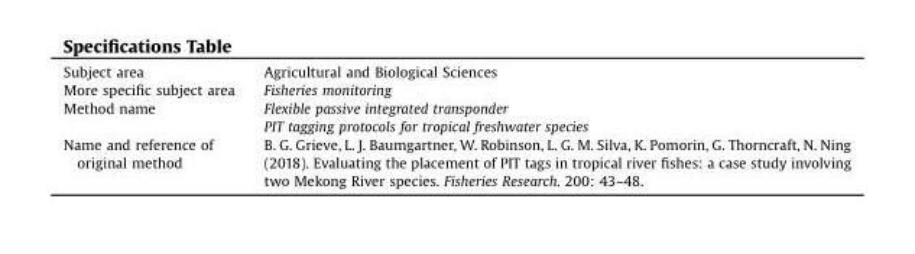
<table><tbody><tr><td>Subject area</td><td>Agricultural and Biological Sciences</td></tr><tr><td>More specific subject area</td><td>Fisheries monitoring</td></tr><tr><td rowspan="2">Method name</td><td>Flexible passive integrated transponder</td></tr><tr><td>PIT tagging protocols for tropical freshwater species</td></tr><tr><td>Name and reference of original method</td><td>B. G. Grieve, L. J. Baumgartner, W. Robinson, L. G. M. Silva, K. Pomorin, G. Thorncraft, N. Ning (2018). Evaluating the placement of PIT tags in tropical river fishes: a case study involving two Mekong River species. Fisheries Research. 200: 43–48.</td></tr></tbody></table>